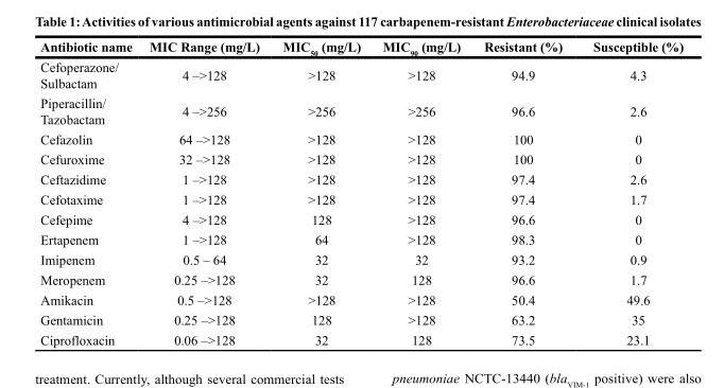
<table><thead><tr><td>Antibiotic name</td><td>MIC Range (mg/L)</td><td>MIC<sub>50</sub> (mg/L)</td><td>MIC<sub>90</sub> (mg/L)</td><td>Resistant (%)</td><td>Susceptible (%)</td></tr></thead><tbody><tr><td>Cefoperazone/ Sulbactam</td><td>4 –&gt;128</td><td>&gt;128</td><td>&gt;128</td><td>94.9</td><td>4.3</td></tr><tr><td>Piperacillin/ Tazobactam</td><td>4 –&gt;256</td><td>&gt;256</td><td>&gt;256</td><td>96.6</td><td>2.6</td></tr><tr><td>Cefazolin</td><td>64 –&gt;128</td><td>&gt;128</td><td>&gt;128</td><td>100</td><td>0</td></tr><tr><td>Cefuroxime</td><td>32 –&gt;128</td><td>&gt;128</td><td>&gt;128</td><td>100</td><td>0</td></tr><tr><td>Ceftazidime</td><td>1 –&gt;128</td><td>&gt;128</td><td>&gt;128</td><td>97.4</td><td>2.6</td></tr><tr><td>Cefotaxime</td><td>1 –&gt;128</td><td>&gt;128</td><td>&gt;128</td><td>97.4</td><td>1.7</td></tr><tr><td>Cefepime</td><td>4 –&gt;128</td><td>128</td><td>&gt;128</td><td>96.6</td><td>0</td></tr><tr><td>Ertapenem</td><td>1 –&gt;128</td><td>64</td><td>&gt;128</td><td>98.3</td><td>0</td></tr><tr><td>Imipenem</td><td>0.5 – 64</td><td>32</td><td>32</td><td>93.2</td><td>0.9</td></tr><tr><td>Meropenem</td><td>0.25 –&gt;128</td><td>32</td><td>128</td><td>96.6</td><td>1.7</td></tr><tr><td>Amikacin</td><td>0.5 –&gt;128</td><td>&gt;128</td><td>&gt;128</td><td>50.4</td><td>49.6</td></tr><tr><td>Gentamicin</td><td>0.25 –&gt;128</td><td>128</td><td>&gt;128</td><td>63.2</td><td>35</td></tr><tr><td>Ciprofloxacin</td><td>0.06 –&gt;128</td><td>32</td><td>128</td><td>73.5</td><td>23.1</td></tr></tbody></table>